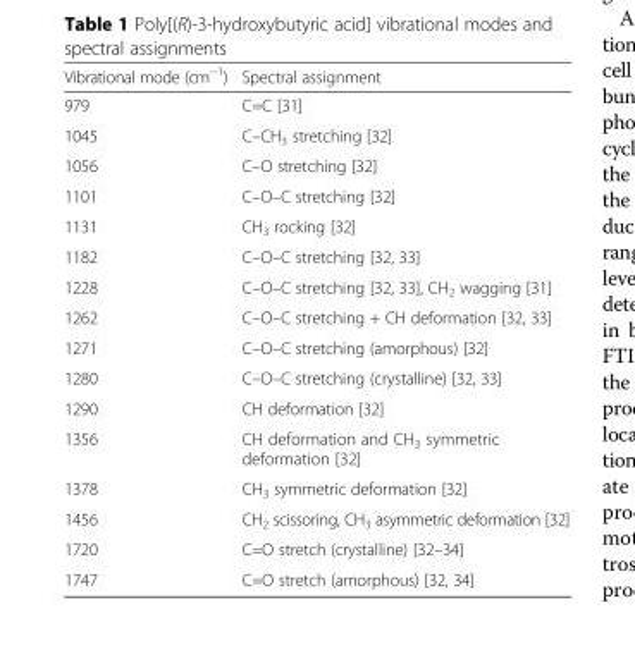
<table><thead><tr><td>Vibrational mode (cm<sup>−1</sup>)</td><td>Spectral assignment</td></tr></thead><tbody><tr><td>979</td><td>C=C [31]</td></tr><tr><td>1045</td><td>C–CH<sub>3</sub> stretching [32]</td></tr><tr><td>1056</td><td>C–O stretching [32]</td></tr><tr><td>1101</td><td>C–O–C stretching [32]</td></tr><tr><td>1131</td><td>CH<sub>3</sub> rocking [32]</td></tr><tr><td>1182</td><td>C–O–C stretching [32, 33]</td></tr><tr><td>1228</td><td>C–O–C stretching [32, 33], CH<sub>2</sub> wagging [31]</td></tr><tr><td>1262</td><td>C–O–C stretching + CH deformation [32, 33]</td></tr><tr><td>1271</td><td>C–O–C stretching (amorphous) [32]</td></tr><tr><td>1280</td><td>C–O–C stretching (crystalline) [32, 33]</td></tr><tr><td>1290</td><td>CH deformation [32]</td></tr><tr><td>1356</td><td>CH deformation and CH<sub>3</sub> symmetric deformation [32]</td></tr><tr><td>1378</td><td>CH<sub>3</sub> symmetric deformation [32]</td></tr><tr><td>1456</td><td>CH<sub>2</sub> scissoring, CH<sub>3</sub> asymmetric deformation [32]</td></tr><tr><td>1720</td><td>C=O stretch (crystalline) [32–34]</td></tr><tr><td>1747</td><td>C=O stretch (amorphous) [32, 34]</td></tr></tbody></table>